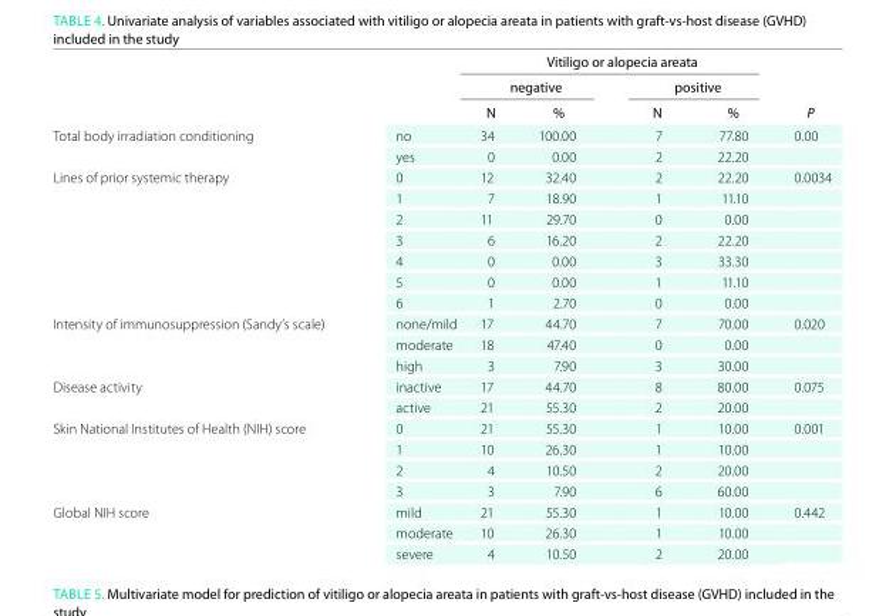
<table><thead><tr><td rowspan="3"></td><td rowspan="3"></td><td colspan="4">Vitiligo or alopecia areata</td><td rowspan="3">P</td></tr><tr><td colspan="2">negative</td><td colspan="2">positive</td></tr><tr><td>N</td><td>%</td><td>N</td><td>%</td></tr></thead><tbody><tr><td rowspan="2">Total body irradiation conditioning</td><td>no</td><td>34</td><td>100.00</td><td>7</td><td>77.80</td><td rowspan="2">0.00</td></tr><tr><td>yes</td><td>0</td><td>0.00</td><td>2</td><td>22.20</td></tr><tr><td rowspan="7">Lines of prior systemic therapy</td><td>0</td><td>12</td><td>32.40</td><td>2</td><td>22.20</td><td rowspan="7">0.0034</td></tr><tr><td>1</td><td>7</td><td>18.90</td><td>1</td><td>11.10</td></tr><tr><td>2</td><td>11</td><td>29.70</td><td>0</td><td>0.00</td></tr><tr><td>3</td><td>6</td><td>16.20</td><td>2</td><td>22.20</td></tr><tr><td>4</td><td>0</td><td>0.00</td><td>3</td><td>33.30</td></tr><tr><td>5</td><td>0</td><td>0.00</td><td>1</td><td>11.10</td></tr><tr><td>6</td><td>1</td><td>2.70</td><td>0</td><td>0.00</td></tr><tr><td rowspan="3">Intensity of immunosuppression (Sandy’s scale)</td><td>none/mild</td><td>17</td><td>44.70</td><td>7</td><td>70.00</td><td rowspan="3">0.020</td></tr><tr><td>moderate</td><td>18</td><td>47.40</td><td>0</td><td>0.00</td></tr><tr><td>high</td><td>3</td><td>7.90</td><td>3</td><td>30.00</td></tr><tr><td rowspan="2">Disease activity</td><td>inactive</td><td>17</td><td>44.70</td><td>8</td><td>80.00</td><td rowspan="2">0.075</td></tr><tr><td>active</td><td>21</td><td>55.30</td><td>2</td><td>20.00</td></tr><tr><td rowspan="4">Skin National Institutes of Health (NIH) score</td><td>0</td><td>21</td><td>55.30</td><td>1</td><td>10.00</td><td rowspan="4">0.001</td></tr><tr><td>1</td><td>10</td><td>26.30</td><td>1</td><td>10.00</td></tr><tr><td>2</td><td>4</td><td>10.50</td><td>2</td><td>20.00</td></tr><tr><td>3</td><td>3</td><td>7.90</td><td>6</td><td>60.00</td></tr><tr><td rowspan="3">Global NIH score</td><td>mild</td><td>21</td><td>55.30</td><td>1</td><td>10.00</td><td rowspan="3">0.442</td></tr><tr><td>moderate</td><td>10</td><td>26.30</td><td>1</td><td>10.00</td></tr><tr><td>severe</td><td>4</td><td>10.50</td><td>2</td><td>20.00</td></tr></tbody></table>